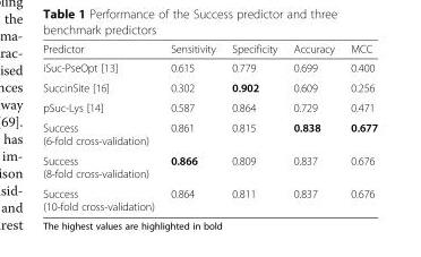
<table><thead><tr><td>Predictor</td><td>Sensitivity</td><td>Specificity</td><td>Accuracy</td><td>MCC</td></tr></thead><tbody><tr><td>iSuc-PseOpt [13]</td><td>0.615</td><td>0.779</td><td>0.699</td><td>0.400</td></tr><tr><td>SuccinSite [16]</td><td>0.302</td><td>0.902</td><td>0.609</td><td>0.256</td></tr><tr><td>pSuc-Lys [14]</td><td>0.587</td><td>0.864</td><td>0.729</td><td>0.471</td></tr><tr><td>Success (6-fold cross-validation)</td><td>0.861</td><td>0.815</td><td>0.838</td><td>0.677</td></tr><tr><td>Success (8-fold cross-validation)</td><td>0.866</td><td>0.809</td><td>0.837</td><td>0.676</td></tr><tr><td>Success (10-fold cross-validation)</td><td>0.864</td><td>0.811</td><td>0.837</td><td>0.676</td></tr></tbody></table>